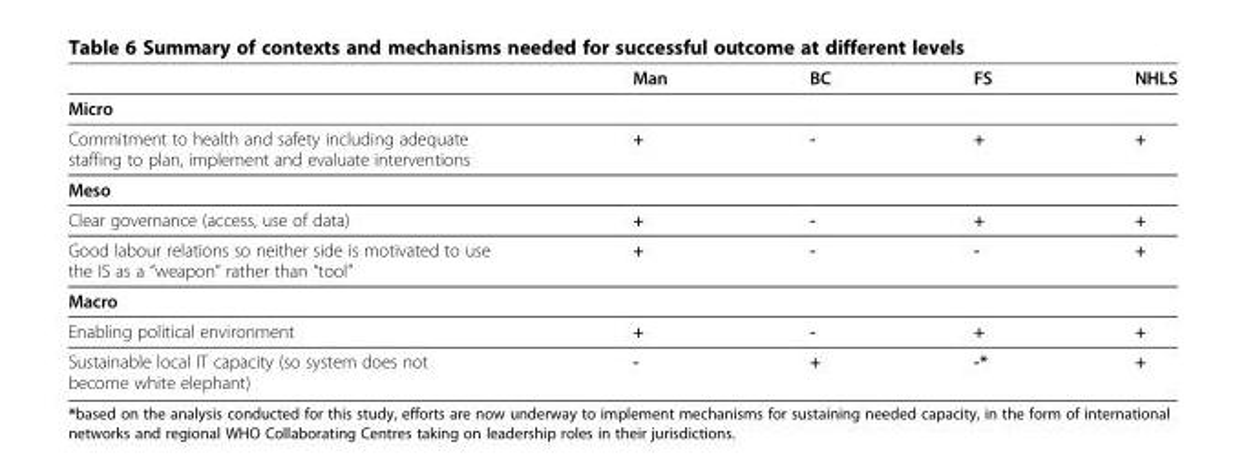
<table><thead><tr><td></td><td>Man</td><td>BC</td><td>FS</td><td>NHLS</td></tr></thead><tbody><tr><td colspan="5">Micro</td></tr><tr><td>Commitment to health and safety including adequate staffing to plan, implement and evaluate interventions</td><td>+</td><td>-</td><td>+</td><td>+</td></tr><tr><td colspan="5">Meso</td></tr><tr><td>Clear governance (access, use of data)</td><td>+</td><td>-</td><td>+</td><td>+</td></tr><tr><td>Good labour relations so neither side is motivated to use the IS as a “weapon” rather than “tool”</td><td>+</td><td>-</td><td>-</td><td>+</td></tr><tr><td colspan="5">Macro</td></tr><tr><td>Enabling political environment</td><td>+</td><td>-</td><td>+</td><td>+</td></tr><tr><td>Sustainable local IT capacity (so system does not become white elephant)</td><td>-</td><td>+</td><td>-*</td><td>+</td></tr></tbody></table>